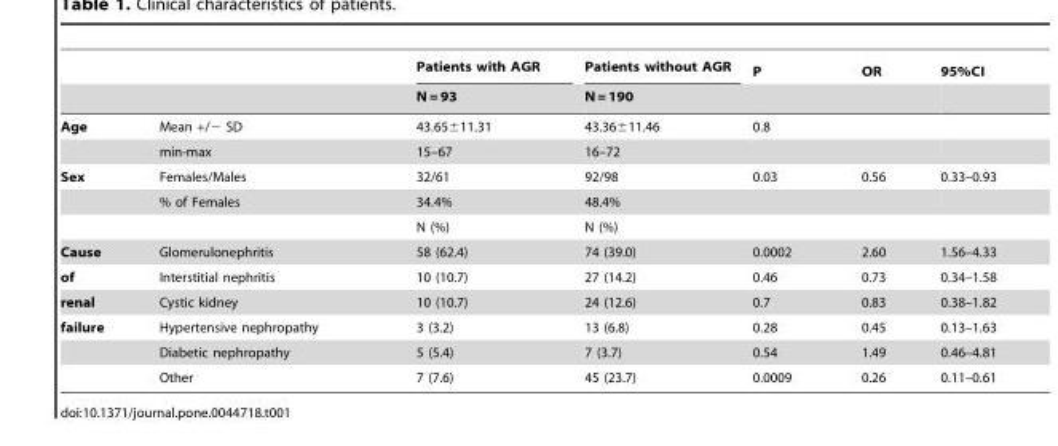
<table><thead><tr><td rowspan="2"></td><td rowspan="2"></td><td rowspan="2">Patients with AGR N = 93</td><td rowspan="2">Patients without AGR N = 190</td><td rowspan="2">P</td><td rowspan="2">OR</td><td rowspan="2">95%CI</td></tr><tr></tr></thead><tbody><tr><td rowspan="2">Age</td><td>Mean +/− SD</td><td>43.65±11.31</td><td>43.36±11.46</td><td>0.8</td><td></td><td></td></tr><tr><td>min-max</td><td>15–67</td><td>16–72</td><td></td><td></td><td></td></tr><tr><td rowspan="3">Sex</td><td>Females/Males</td><td>32/61</td><td>92/98</td><td>0.03</td><td>0.56</td><td>0.33–0.93</td></tr><tr><td>% of Females</td><td>34.4%</td><td>48.4%</td><td></td><td></td><td></td></tr><tr><td></td><td>N (%)</td><td>N (%)</td><td></td><td></td><td></td></tr><tr><td>Cause</td><td>Glomerulonephritis</td><td>58 (62.4)</td><td>74 (39.0)</td><td>0.0002</td><td>2.60</td><td>1.56–4.33</td></tr><tr><td>of</td><td>Interstitial nephritis</td><td>10 (10.7)</td><td>27 (14.2)</td><td>0.46</td><td>0.73</td><td>0.34–1.58</td></tr><tr><td>renal</td><td>Cystic kidney</td><td>10 (10.7)</td><td>24 (12.6)</td><td>0.7</td><td>0.83</td><td>0.38–1.82</td></tr><tr><td rowspan="3">failure</td><td>Hypertensive nephropathy</td><td>3 (3.2)</td><td>13 (6.8)</td><td>0.28</td><td>0.45</td><td>0.13–1.63</td></tr><tr><td>Diabetic nephropathy</td><td>5 (5.4)</td><td>7 (3.7)</td><td>0.54</td><td>1.49</td><td>0.46–4.81</td></tr><tr><td>Other</td><td>7 (7.6)</td><td>45 (23.7)</td><td>0.0009</td><td>0.26</td><td>0.11–0.61</td></tr></tbody></table>